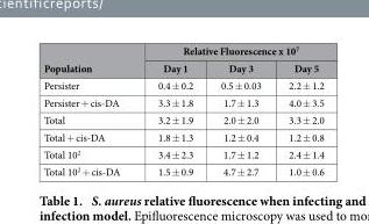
<table><thead><tr><td rowspan="2">Population</td><td colspan="3">Relative Fluorescence x 10<sup>7</sup></td></tr><tr><td>Day 1</td><td>Day 3</td><td>Day 5</td></tr></thead><tbody><tr><td>Persister</td><td>0.4 ± 0.2</td><td>0.5 ± 0.03</td><td>2.2 ± 1.2</td></tr><tr><td>Persister + cis-DA</td><td>3.3 ± 1.8</td><td>1.7 ± 1.3</td><td>4.0 ± 3.5</td></tr><tr><td>Total</td><td>3.2 ± 1.9</td><td>2.0 ± 2.0</td><td>3.3 ± 2.0</td></tr><tr><td>Total + cis-DA</td><td>1.8 ± 1.3</td><td>1.2 ± 0.4</td><td>1.2 ± 0.8</td></tr><tr><td>Total 10<sup>2</sup></td><td>3.4 ± 2.3</td><td>1.7 ± 1.2</td><td>2.4 ± 1.4</td></tr><tr><td>Total 10<sup>2</sup> + cis-DA</td><td>1.5 ± 0.9</td><td>4.7 ± 2.7</td><td>1.0 ± 0.6</td></tr></tbody></table>